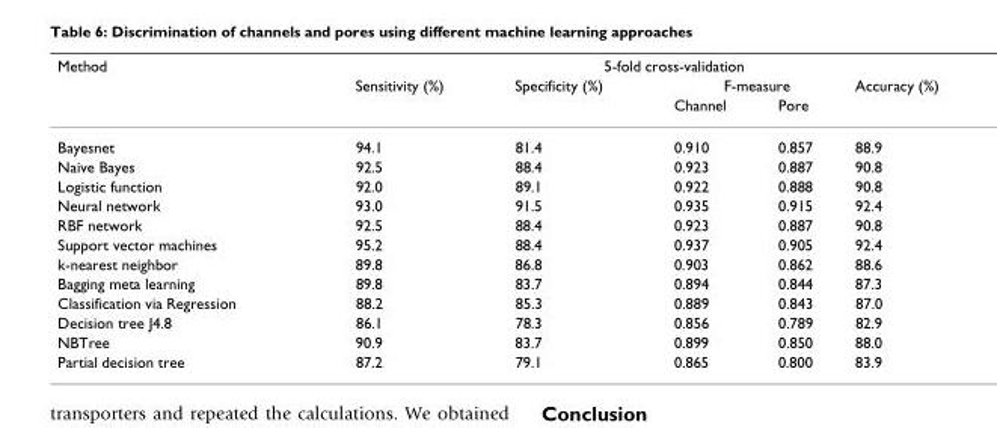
<table><thead><tr><td rowspan="3">Method</td><td colspan="5">5-fold cross-validation</td></tr><tr><td rowspan="2">Sensitivity (%)</td><td rowspan="2">Specificity (%)</td><td colspan="2">F-measure</td><td rowspan="2">Accuracy (%)</td></tr><tr><td>Channel</td><td>Pore</td></tr></thead><tbody><tr><td>Bayesnet</td><td>94.1</td><td>81.4</td><td>0.910</td><td>0.857</td><td>88.9</td></tr><tr><td>Naive Bayes</td><td>92.5</td><td>88.4</td><td>0.923</td><td>0.887</td><td>90.8</td></tr><tr><td>Logistic function</td><td>92.0</td><td>89.1</td><td>0.922</td><td>0.888</td><td>90.8</td></tr><tr><td>Neural network</td><td>93.0</td><td>91.5</td><td>0.935</td><td>0.915</td><td>92.4</td></tr><tr><td>RBF network</td><td>92.5</td><td>88.4</td><td>0.923</td><td>0.887</td><td>90.8</td></tr><tr><td>Support vector machines</td><td>95.2</td><td>88.4</td><td>0.937</td><td>0.905</td><td>92.4</td></tr><tr><td>k-nearest neighbor</td><td>89.8</td><td>86.8</td><td>0.903</td><td>0.862</td><td>88.6</td></tr><tr><td>Bagging meta learning</td><td>89.8</td><td>83.7</td><td>0.894</td><td>0.844</td><td>87.3</td></tr><tr><td>Classification via Regression</td><td>88.2</td><td>85.3</td><td>0.889</td><td>0.843</td><td>87.0</td></tr><tr><td>Decision tree J4.8</td><td>86.1</td><td>78.3</td><td>0.856</td><td>0.789</td><td>82.9</td></tr><tr><td>NBTree</td><td>90.9</td><td>83.7</td><td>0.899</td><td>0.850</td><td>88.0</td></tr><tr><td>Partial decision tree</td><td>87.2</td><td>79.1</td><td>0.865</td><td>0.800</td><td>83.9</td></tr></tbody></table>